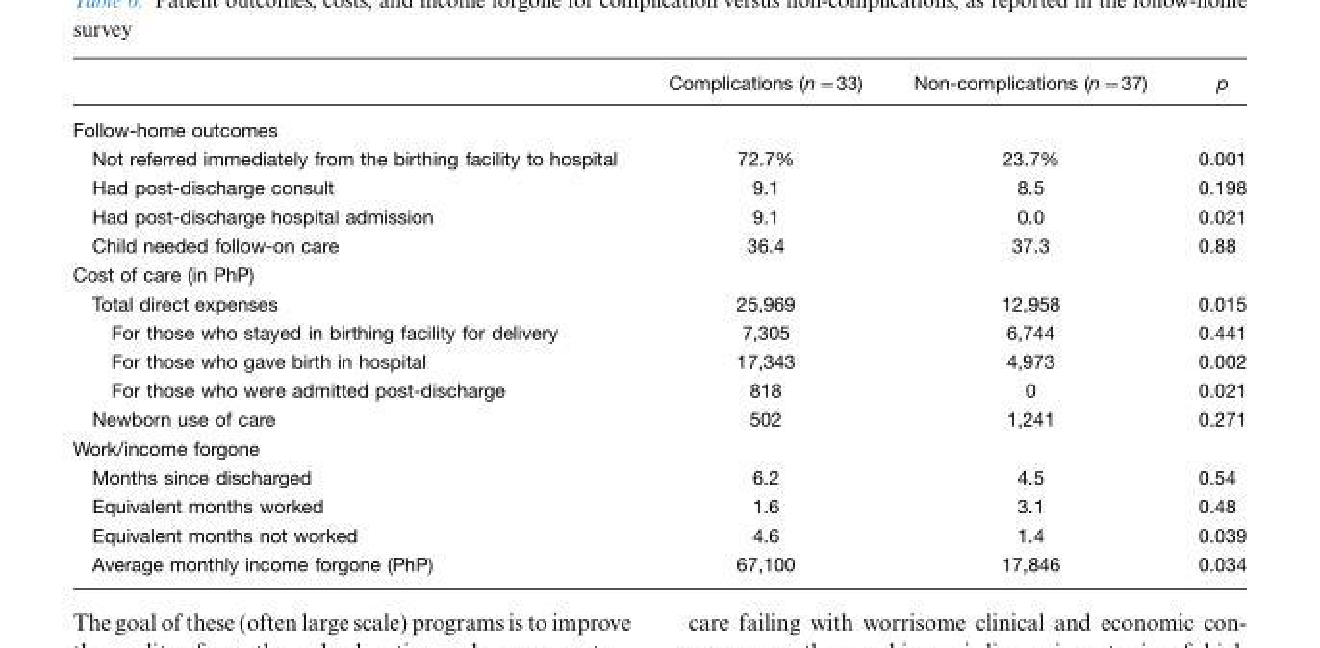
<table><thead><tr><td></td><td>Complications (n=33)</td><td>Non-complications (n=37)</td><td>p</td></tr></thead><tbody><tr><td colspan="4">Follow-home outcomes</td></tr><tr><td>Not referred immediately from the birthing facility to hospital</td><td>72.7%</td><td>23.7%</td><td>0.001</td></tr><tr><td>Had post-discharge consult</td><td>9.1</td><td>8.5</td><td>0.198</td></tr><tr><td>Had post-discharge hospital admission</td><td>9.1</td><td>0.0</td><td>0.021</td></tr><tr><td>Child needed follow-on care</td><td>36.4</td><td>37.3</td><td>0.88</td></tr><tr><td colspan="4">Cost of care (in PhP)</td></tr><tr><td>Total direct expenses</td><td>25,969</td><td>12,958</td><td>0.015</td></tr><tr><td>For those who stayed in birthing facility for delivery</td><td>7,305</td><td>6,744</td><td>0.441</td></tr><tr><td>For those who gave birth in hospital</td><td>17,343</td><td>4,973</td><td>0.002</td></tr><tr><td>For those who were admitted post-discharge</td><td>818</td><td>0</td><td>0.021</td></tr><tr><td>Newborn use of care</td><td>502</td><td>1,241</td><td>0.271</td></tr><tr><td colspan="4">Work/income forgone</td></tr><tr><td>Months since discharged</td><td>6.2</td><td>4.5</td><td>0.54</td></tr><tr><td>Equivalent months worked</td><td>1.6</td><td>3.1</td><td>0.48</td></tr><tr><td>Equivalent months not worked</td><td>4.6</td><td>1.4</td><td>0.039</td></tr><tr><td>Average monthly income forgone (PhP)</td><td>67,100</td><td>17,846</td><td>0.034</td></tr></tbody></table>